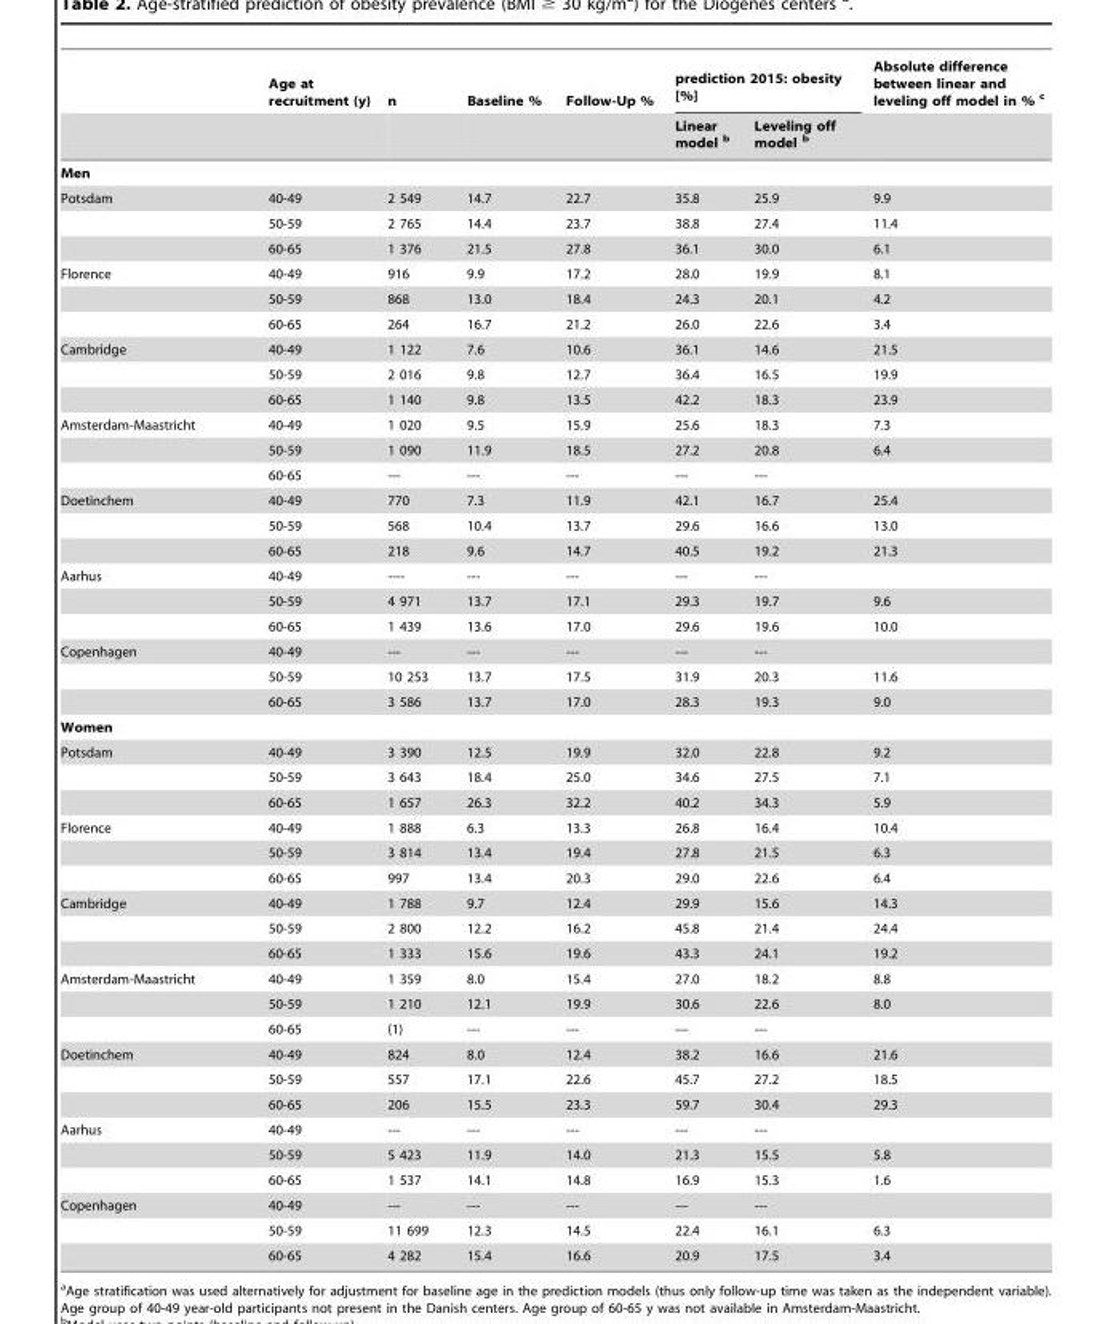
<table><thead><tr><td rowspan="2"></td><td rowspan="2">Age at recruitment (y)</td><td rowspan="2">n</td><td rowspan="2">Baseline %</td><td rowspan="2">Follow-Up %</td><td colspan="2">prediction 2015: obesity [%]</td><td rowspan="2">Absolute difference between linear and leveling off model in % c</td></tr><tr><td>Linear model b</td><td>Leveling off model b</td></tr></thead><tbody><tr><td colspan="8">Men</td></tr><tr><td rowspan="3">Potsdam</td><td>40-49</td><td>2 549</td><td>14.7</td><td>22.7</td><td>35.8</td><td>25.9</td><td>9.9</td></tr><tr><td>50-59</td><td>2 765</td><td>14.4</td><td>23.7</td><td>38.8</td><td>27.4</td><td>11.4</td></tr><tr><td>60-65</td><td>1 376</td><td>21.5</td><td>27.8</td><td>36.1</td><td>30.0</td><td>6.1</td></tr><tr><td rowspan="3">Florence</td><td>40-49</td><td>916</td><td>9.9</td><td>17.2</td><td>28.0</td><td>19.9</td><td>8.1</td></tr><tr><td>50-59</td><td>868</td><td>13.0</td><td>18.4</td><td>24.3</td><td>20.1</td><td>4.2</td></tr><tr><td>60-65</td><td>264</td><td>16.7</td><td>21.2</td><td>26.0</td><td>22.6</td><td>3.4</td></tr><tr><td rowspan="3">Cambridge</td><td>40-49</td><td>1 122</td><td>7.6</td><td>10.6</td><td>36.1</td><td>14.6</td><td>21.5</td></tr><tr><td>50-59</td><td>2 016</td><td>9.8</td><td>12.7</td><td>36.4</td><td>16.5</td><td>19.9</td></tr><tr><td>60-65</td><td>1 140</td><td>9.8</td><td>13.5</td><td>42.2</td><td>18.3</td><td>23.9</td></tr><tr><td rowspan="3">Amsterdam-Maastricht</td><td>40-49</td><td>1 020</td><td>9.5</td><td>15.9</td><td>25.6</td><td>18.3</td><td>7.3</td></tr><tr><td>50-59</td><td>1 090</td><td>11.9</td><td>18.5</td><td>27.2</td><td>20.8</td><td>6.4</td></tr><tr><td>60-65</td><td>---</td><td>---</td><td>---</td><td>---</td><td>---</td><td></td></tr><tr><td rowspan="3">Doetinchem</td><td>40-49</td><td>770</td><td>7.3</td><td>11.9</td><td>42.1</td><td>16.7</td><td>25.4</td></tr><tr><td>50-59</td><td>568</td><td>10.4</td><td>13.7</td><td>29.6</td><td>16.6</td><td>13.0</td></tr><tr><td>60-65</td><td>218</td><td>9.6</td><td>14.7</td><td>40.5</td><td>19.2</td><td>21.3</td></tr><tr><td rowspan="3">Aarhus</td><td>40-49</td><td>----</td><td>---</td><td>---</td><td>---</td><td>---</td><td></td></tr><tr><td>50-59</td><td>4 971</td><td>13.7</td><td>17.1</td><td>29.3</td><td>19.7</td><td>9.6</td></tr><tr><td>60-65</td><td>1 439</td><td>13.6</td><td>17.0</td><td>29.6</td><td>19.6</td><td>10.0</td></tr><tr><td rowspan="3">Copenhagen</td><td>40-49</td><td>---</td><td>---</td><td>---</td><td>---</td><td>---</td><td></td></tr><tr><td>50-59</td><td>10 253</td><td>13.7</td><td>17.5</td><td>31.9</td><td>20.3</td><td>11.6</td></tr><tr><td>60-65</td><td>3 586</td><td>13.7</td><td>17.0</td><td>28.3</td><td>19.3</td><td>9.0</td></tr><tr><td colspan="8">Women</td></tr><tr><td rowspan="3">Potsdam</td><td>40-49</td><td>3 390</td><td>12.5</td><td>19.9</td><td>32.0</td><td>22.8</td><td>9.2</td></tr><tr><td>50-59</td><td>3 643</td><td>18.4</td><td>25.0</td><td>34.6</td><td>27.5</td><td>7.1</td></tr><tr><td>60-65</td><td>1 657</td><td>26.3</td><td>32.2</td><td>40.2</td><td>34.3</td><td>5.9</td></tr><tr><td rowspan="3">Florence</td><td>40-49</td><td>1 888</td><td>6.3</td><td>13.3</td><td>26.8</td><td>16.4</td><td>10.4</td></tr><tr><td>50-59</td><td>3 814</td><td>13.4</td><td>19.4</td><td>27.8</td><td>21.5</td><td>6.3</td></tr><tr><td>60-65</td><td>997</td><td>13.4</td><td>20.3</td><td>29.0</td><td>22.6</td><td>6.4</td></tr><tr><td rowspan="3">Cambridge</td><td>40-49</td><td>1 788</td><td>9.7</td><td>12.4</td><td>29.9</td><td>15.6</td><td>14.3</td></tr><tr><td>50-59</td><td>2 800</td><td>12.2</td><td>16.2</td><td>45.8</td><td>21.4</td><td>24.4</td></tr><tr><td>60-65</td><td>1 333</td><td>15.6</td><td>19.6</td><td>43.3</td><td>24.1</td><td>19.2</td></tr><tr><td rowspan="3">Amsterdam-Maastricht</td><td>40-49</td><td>1 359</td><td>8.0</td><td>15.4</td><td>27.0</td><td>18.2</td><td>8.8</td></tr><tr><td>50-59</td><td>1 210</td><td>12.1</td><td>19.9</td><td>30.6</td><td>22.6</td><td>8.0</td></tr><tr><td>60-65</td><td>(1)</td><td>---</td><td>---</td><td>---</td><td>---</td><td></td></tr><tr><td rowspan="3">Doetinchem</td><td>40-49</td><td>824</td><td>8.0</td><td>12.4</td><td>38.2</td><td>16.6</td><td>21.6</td></tr><tr><td>50-59</td><td>557</td><td>17.1</td><td>22.6</td><td>45.7</td><td>27.2</td><td>18.5</td></tr><tr><td>60-65</td><td>206</td><td>15.5</td><td>23.3</td><td>59.7</td><td>30.4</td><td>29.3</td></tr><tr><td rowspan="3">Aarhus</td><td>40-49</td><td>---</td><td>---</td><td>---</td><td>---</td><td>---</td><td></td></tr><tr><td>50-59</td><td>5 423</td><td>11.9</td><td>14.0</td><td>21.3</td><td>15.5</td><td>5.8</td></tr><tr><td>60-65</td><td>1 537</td><td>14.1</td><td>14.8</td><td>16.9</td><td>15.3</td><td>1.6</td></tr><tr><td rowspan="3">Copenhagen</td><td>40-49</td><td>---</td><td>---</td><td>---</td><td>---</td><td>---</td><td></td></tr><tr><td>50-59</td><td>11 699</td><td>12.3</td><td>14.5</td><td>22.4</td><td>16.1</td><td>6.3</td></tr><tr><td>60-65</td><td>4 282</td><td>15.4</td><td>16.6</td><td>20.9</td><td>17.5</td><td>3.4</td></tr></tbody></table>